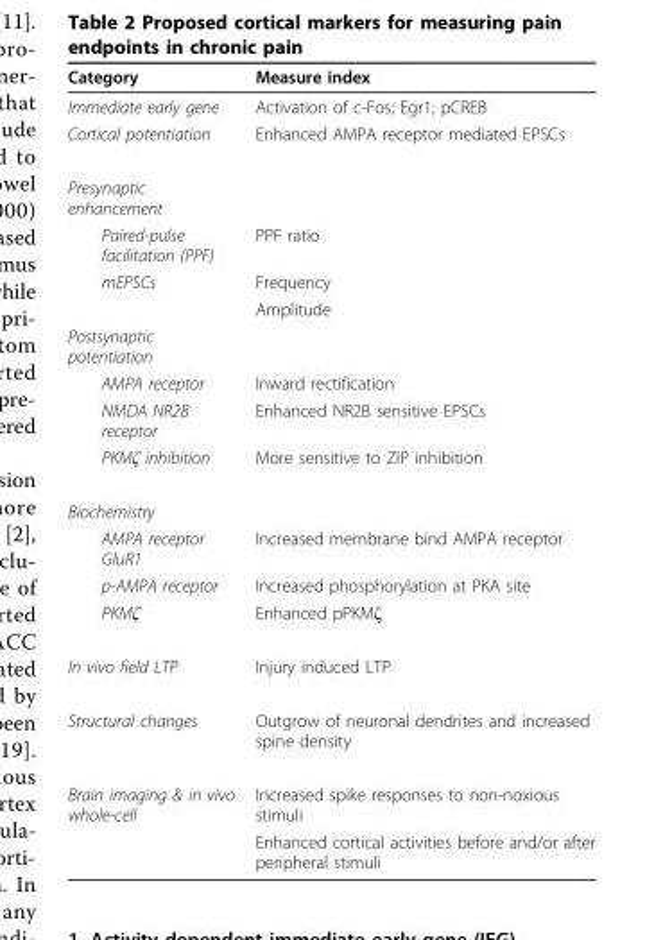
<table><thead><tr><td>Category</td><td>Measure index</td></tr></thead><tbody><tr><td>Immediate early gene</td><td>Activation of c-Fos; Egr1; pCREB</td></tr><tr><td>Cortical potentiation</td><td>Enhanced AMPA receptor mediated EPSCs</td></tr><tr><td colspan="2">Presynaptic enhancement</td></tr><tr><td>Paired-pulse facilitation (PPF)</td><td>PPF ratio</td></tr><tr><td rowspan="2">mEPSCs</td><td>Frequency</td></tr><tr><td>Amplitude</td></tr><tr><td colspan="2">Postsynaptic potentiation</td></tr><tr><td>AMPA receptor</td><td>Inward rectification</td></tr><tr><td>NMDA NR2B receptor</td><td>Enhanced NR2B sensitive EPSCs</td></tr><tr><td>PKMζ inhibition</td><td>More sensitive to ZIP inhibition</td></tr><tr><td colspan="2">Biochemistry</td></tr><tr><td>AMPA receptor GluR1</td><td>Increased membrane bind AMPA receptor</td></tr><tr><td>p-AMPA receptor</td><td>Increased phosphorylation at PKA site</td></tr><tr><td>PKMζ</td><td>Enhanced pPKMζ</td></tr><tr><td>In vivo field LTP</td><td>Injury induced LTP</td></tr><tr><td>Structural changes</td><td>Outgrow of neuronal dendrites and increased spine density</td></tr><tr><td rowspan="2">Brain imaging &amp; in vivo whole-cell</td><td>Increased spike responses to non-noxious stimuli</td></tr><tr><td>Enhanced cortical activities before and/or after peripheral stimuli</td></tr></tbody></table>